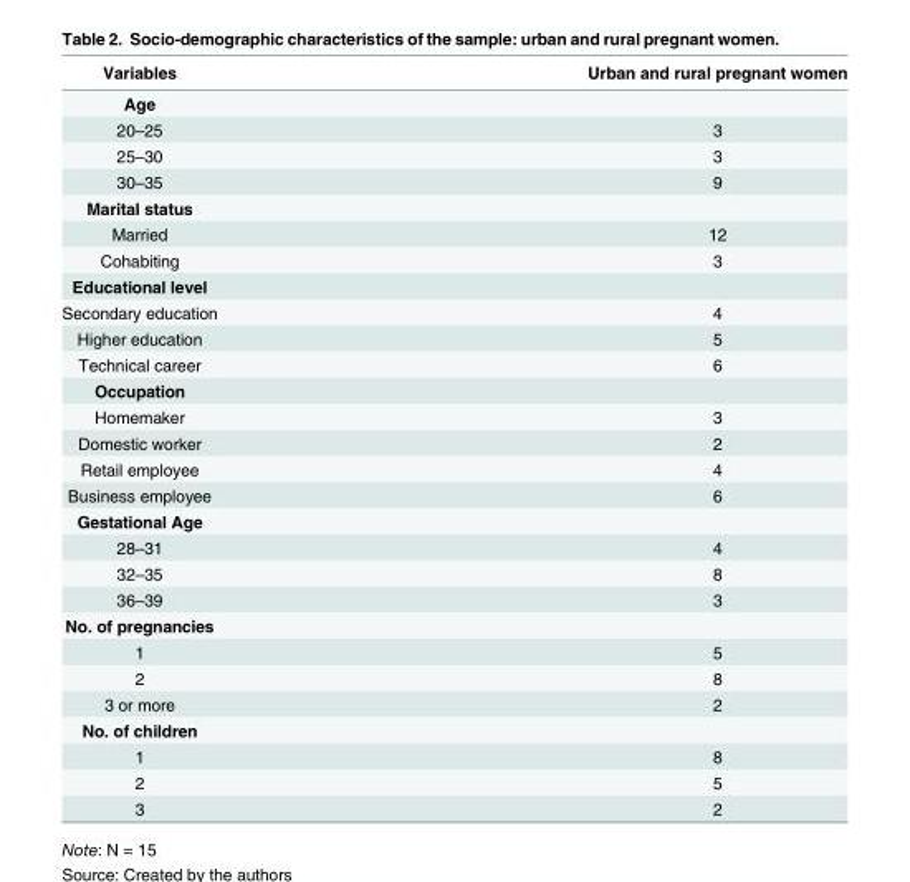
<table><thead><tr><td>Variables</td><td>Urban and rural pregnant women</td></tr></thead><tbody><tr><td colspan="2">Age</td></tr><tr><td>20–25</td><td>3</td></tr><tr><td>25–30</td><td>3</td></tr><tr><td>30–35</td><td>9</td></tr><tr><td colspan="2">Marital status</td></tr><tr><td>Married</td><td>12</td></tr><tr><td>Cohabiting</td><td>3</td></tr><tr><td colspan="2">Educational level</td></tr><tr><td>Secondary education</td><td>4</td></tr><tr><td>Higher education</td><td>5</td></tr><tr><td>Technical career</td><td>6</td></tr><tr><td colspan="2">Occupation</td></tr><tr><td>Homemaker</td><td>3</td></tr><tr><td>Domestic worker</td><td>2</td></tr><tr><td>Retail employee</td><td>4</td></tr><tr><td>Business employee</td><td>6</td></tr><tr><td colspan="2">Gestational Age</td></tr><tr><td>28–31</td><td>4</td></tr><tr><td>32–35</td><td>8</td></tr><tr><td>36–39</td><td>3</td></tr><tr><td colspan="2">No. of pregnancies</td></tr><tr><td>1</td><td>5</td></tr><tr><td>2</td><td>8</td></tr><tr><td>3 or more</td><td>2</td></tr><tr><td colspan="2">No. of children</td></tr><tr><td>1</td><td>8</td></tr><tr><td>2</td><td>5</td></tr><tr><td>3</td><td>2</td></tr></tbody></table>